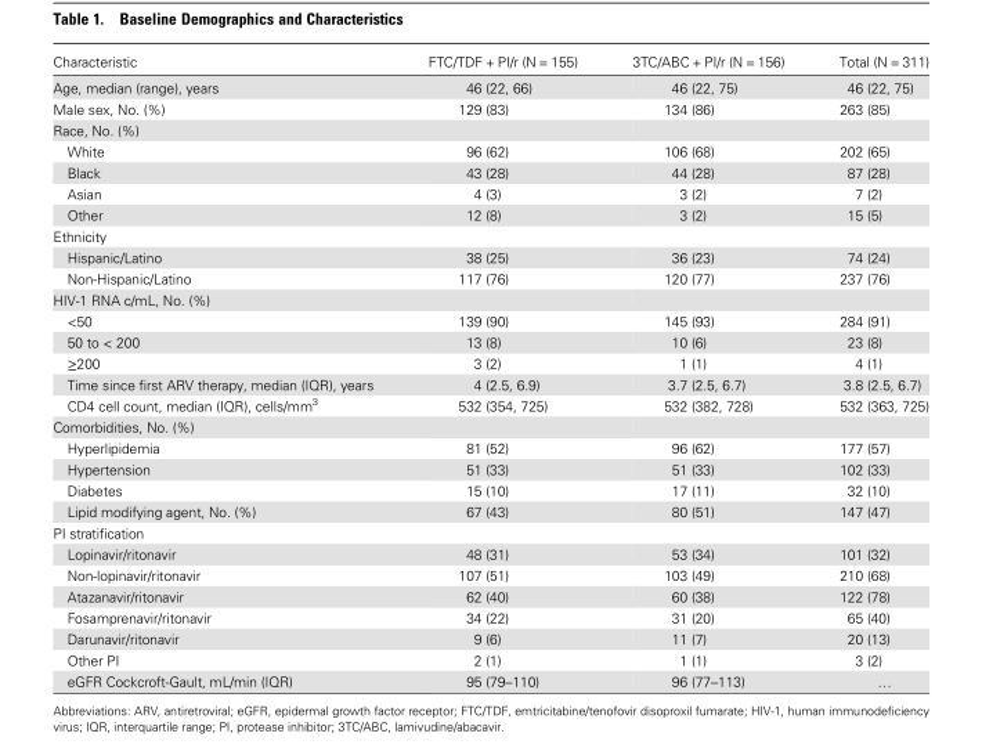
<table><thead><tr><td>Characteristic</td><td>FTC/TDF + PI/r (N = 155)</td><td>3TC/ABC + PI/r (N = 156)</td><td>Total (N = 311)</td></tr></thead><tbody><tr><td>Age, median (range), years</td><td>46 (22, 66)</td><td>46 (22, 75)</td><td>46 (22, 75)</td></tr><tr><td>Male sex, No. (%)</td><td>129 (83)</td><td>134 (86)</td><td>263 (85)</td></tr><tr><td colspan="4">Race, No. (%)</td></tr><tr><td>White</td><td>96 (62)</td><td>106 (68)</td><td>202 (65)</td></tr><tr><td>Black</td><td>43 (28)</td><td>44 (28)</td><td>87 (28)</td></tr><tr><td>Asian</td><td>4 (3)</td><td>3 (2)</td><td>7 (2)</td></tr><tr><td>Other</td><td>12 (8)</td><td>3 (2)</td><td>15 (5)</td></tr><tr><td colspan="4">Ethnicity</td></tr><tr><td>Hispanic/Latino</td><td>38 (25)</td><td>36 (23)</td><td>74 (24)</td></tr><tr><td>Non-Hispanic/Latino</td><td>117 (76)</td><td>120 (77)</td><td>237 (76)</td></tr><tr><td colspan="4">HIV-1 RNA c/mL, No. (%)</td></tr><tr><td>&lt;50</td><td>139 (90)</td><td>145 (93)</td><td>284 (91)</td></tr><tr><td>50 to &lt; 200</td><td>13 (8)</td><td>10 (6)</td><td>23 (8)</td></tr><tr><td>≥200</td><td>3 (2)</td><td>1 (1)</td><td>4 (1)</td></tr><tr><td>Time since first ARV therapy, median (IQR), years</td><td>4 (2.5, 6.9)</td><td>3.7 (2.5, 6.7)</td><td>3.8 (2.5, 6.7)</td></tr><tr><td>CD4 cell count, median (IQR), cells/mm<sup>3</sup></td><td>532 (354, 725)</td><td>532 (382, 728)</td><td>532 (363, 725)</td></tr><tr><td colspan="4">Comorbidities, No. (%)</td></tr><tr><td>Hyperlipidemia</td><td>81 (52)</td><td>96 (62)</td><td>177 (57)</td></tr><tr><td>Hypertension</td><td>51 (33)</td><td>51 (33)</td><td>102 (33)</td></tr><tr><td>Diabetes</td><td>15 (10)</td><td>17 (11)</td><td>32 (10)</td></tr><tr><td>Lipid modifying agent, No. (%)</td><td>67 (43)</td><td>80 (51)</td><td>147 (47)</td></tr><tr><td colspan="4">PI stratification</td></tr><tr><td>Lopinavir/ritonavir</td><td>48 (31)</td><td>53 (34)</td><td>101 (32)</td></tr><tr><td>Non-lopinavir/ritonavir</td><td>107 (51)</td><td>103 (49)</td><td>210 (68)</td></tr><tr><td>Atazanavir/ritonavir</td><td>62 (40)</td><td>60 (38)</td><td>122 (78)</td></tr><tr><td>Fosamprenavir/ritonavir</td><td>34 (22)</td><td>31 (20)</td><td>65 (40)</td></tr><tr><td>Darunavir/ritonavir</td><td>9 (6)</td><td>11 (7)</td><td>20 (13)</td></tr><tr><td>Other PI</td><td>2 (1)</td><td>1 (1)</td><td>3 (2)</td></tr><tr><td>eGFR Cockcroft-Gault, mL/min (IQR)</td><td>95 (79–110)</td><td>96 (77–113)</td><td>…</td></tr></tbody></table>